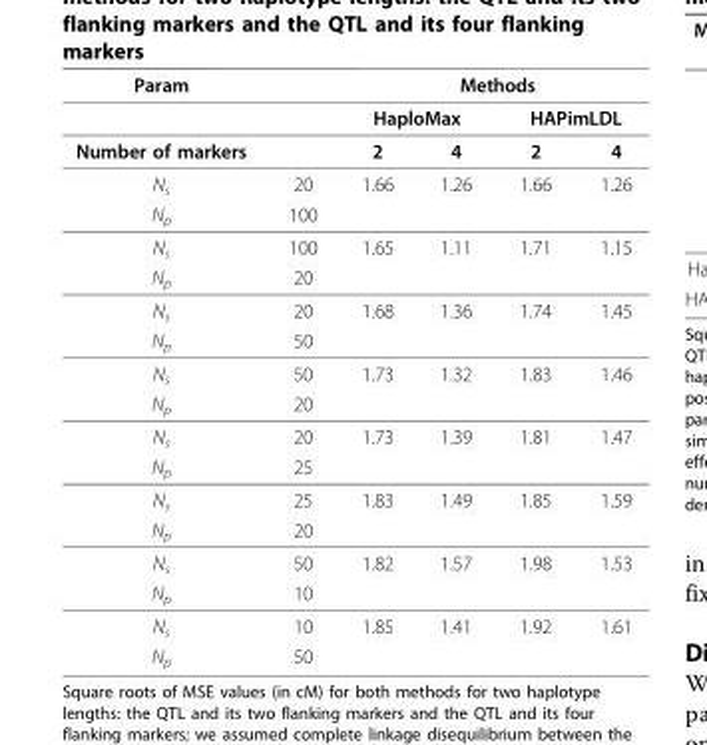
<table><thead><tr><td rowspan="3">Param Number of markers</td><td rowspan="3"></td><td colspan="4">Methods</td></tr><tr><td colspan="2">HaploMax</td><td colspan="2">HAPimLDL</td></tr><tr><td>2</td><td>4</td><td>2</td><td>4</td></tr></thead><tbody><tr><td>Ns</td><td>20</td><td>1.66</td><td>1.26</td><td>1.66</td><td>1.26</td></tr><tr><td>Np</td><td>100</td><td></td><td></td><td></td><td></td></tr><tr><td>Ns</td><td>100</td><td>1.65</td><td>1.11</td><td>1.71</td><td>1.15</td></tr><tr><td>Np</td><td>20</td><td></td><td></td><td></td><td></td></tr><tr><td>Ns</td><td>20</td><td>1.68</td><td>1.36</td><td>1.74</td><td>1.45</td></tr><tr><td>Np</td><td>50</td><td></td><td></td><td></td><td></td></tr><tr><td>Ns</td><td>50</td><td>1.73</td><td>1.32</td><td>1.83</td><td>1.46</td></tr><tr><td>Np</td><td>20</td><td></td><td></td><td></td><td></td></tr><tr><td>Ns</td><td>20</td><td>1.73</td><td>1.39</td><td>1.81</td><td>1.47</td></tr><tr><td>Np</td><td>25</td><td></td><td></td><td></td><td></td></tr><tr><td>Ns</td><td>25</td><td>1.83</td><td>1.49</td><td>1.85</td><td>1.59</td></tr><tr><td>Np</td><td>20</td><td></td><td></td><td></td><td></td></tr><tr><td>Ns</td><td>50</td><td>1.82</td><td>1.57</td><td>1.98</td><td>1.53</td></tr><tr><td>Np</td><td>10</td><td></td><td></td><td></td><td></td></tr><tr><td>Ns</td><td>10</td><td>1.85</td><td>1.41</td><td>1.92</td><td>1.61</td></tr><tr><td>Np</td><td>50</td><td></td><td></td><td></td><td></td></tr></tbody></table>